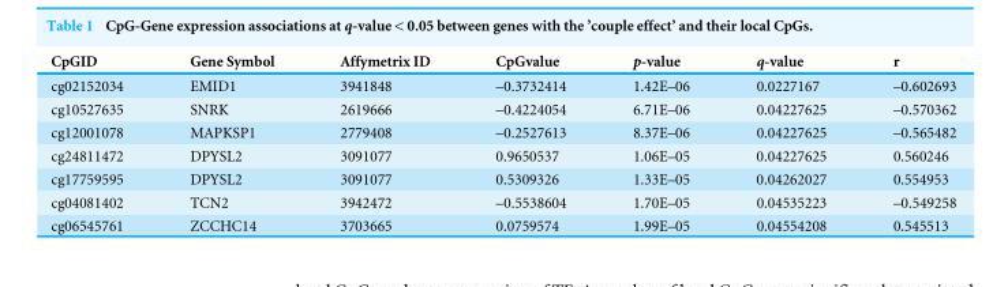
<table><thead><tr><td>CpGID</td><td>Gene Symbol</td><td>Affymetrix ID</td><td>CpGvalue</td><td>p-value</td><td>q-value</td><td>r</td></tr></thead><tbody><tr><td>cg02152034</td><td>EMID1</td><td>3941848</td><td>–0.3732414</td><td>1.42E–06</td><td>0.0227167</td><td>–0.602693</td></tr><tr><td>cg10527635</td><td>SNRK</td><td>2619666</td><td>–0.4224054</td><td>6.71E–06</td><td>0.04227625</td><td>–0.570362</td></tr><tr><td>cg12001078</td><td>MAPKSP1</td><td>2779408</td><td>–0.2527613</td><td>8.37E–06</td><td>0.04227625</td><td>–0.565482</td></tr><tr><td>cg24811472</td><td>DPYSL2</td><td>3091077</td><td>0.9650537</td><td>1.06E–05</td><td>0.04227625</td><td>0.560246</td></tr><tr><td>cg17759595</td><td>DPYSL2</td><td>3091077</td><td>0.5309326</td><td>1.33E–05</td><td>0.04262027</td><td>0.554953</td></tr><tr><td>cg04081402</td><td>TCN2</td><td>3942472</td><td>–0.5538604</td><td>1.70E–05</td><td>0.04535223</td><td>–0.549258</td></tr><tr><td>cg06545761</td><td>ZCCHC14</td><td>3703665</td><td>0.0759574</td><td>1.99E–05</td><td>0.04554208</td><td>0.545513</td></tr></tbody></table>